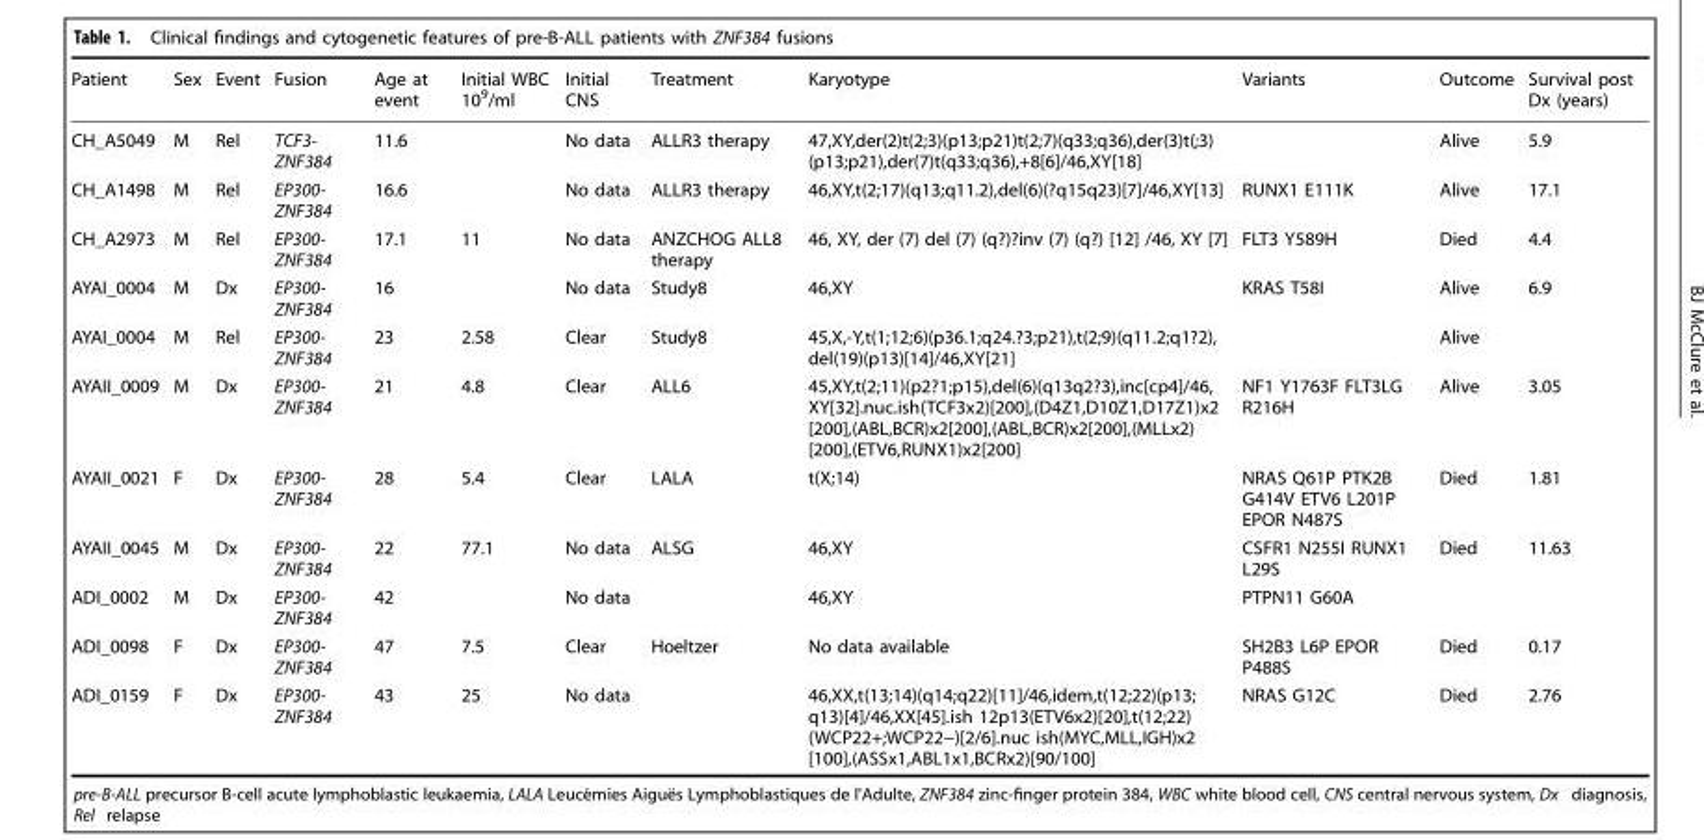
<table><thead><tr><td>Patient</td><td>Sex</td><td>Event</td><td>Fusion</td><td>Age at event</td><td>Initial WBC 10<sup>9</sup>/ml</td><td>Initial CNS</td><td>Treatment</td><td>Karyotype</td><td>Variants</td><td>Outcome</td><td>Survival post Dx (years)</td></tr></thead><tbody><tr><td>CH_A5049</td><td>M</td><td>Rel</td><td>TCF3- ZNF384</td><td>11.6</td><td></td><td>No data</td><td>ALLR3 therapy</td><td>47,XY,der(2)t(2;3)(p13;p21)t(2;7)(q33;q36),der(3)t(;3) (p13;p21),der(7)t(q33;q36),+8[6]/46,XY[18]</td><td></td><td>Alive</td><td>5.9</td></tr><tr><td>CH_A1498</td><td>M</td><td>Rel</td><td>EP300- ZNF384</td><td>16.6</td><td></td><td>No data</td><td>ALLR3 therapy</td><td>46,XY,t(2;17)(q13;q11.2),del(6)(?q15q23)[7]/46,XY[13]</td><td>RUNX1 E111K</td><td>Alive</td><td>17.1</td></tr><tr><td>CH_A2973</td><td>M</td><td>Rel</td><td>EP300- ZNF384</td><td>17.1</td><td>11</td><td>No data</td><td>ANZCHOG ALL8 therapy</td><td>46, XY, der (7) del (7) (q?)?inv (7) (q?) [12] /46, XY [7]</td><td>FLT3 Y589H</td><td>Died</td><td>4.4</td></tr><tr><td>AYAI_0004</td><td>M</td><td>Dx</td><td>EP300- ZNF384</td><td>16</td><td></td><td>No data</td><td>Study8</td><td>46,XY</td><td>KRAS T58I</td><td>Alive</td><td>6.9</td></tr><tr><td>AYAI_0004</td><td>M</td><td>Rel</td><td>EP300- ZNF384</td><td>23</td><td>2.58</td><td>Clear</td><td>Study8</td><td>45,X,-Y,t(1;12;6)(p36.1;q24.?3;p21),t(2;9)(q11.2;q1?2), del(19)(p13)[14]/46,XY[21]</td><td></td><td>Alive</td><td></td></tr><tr><td>AYAII_0009</td><td>M</td><td>Dx</td><td>EP300- ZNF384</td><td>21</td><td>4.8</td><td>Clear</td><td>ALL6</td><td>45,XY,t(2;11)(p2?1;p15),del(6)(q13q2?3),inc[cp4]/46, XY[32].nuc.ish(TCF3x2)[200],(D4Z1,D10Z1,D17Z1)x2 [200],(ABL,BCR)x2[200],(ABL,BCR)x2[200],(MLLx2) [200],(ETV6,RUNX1)x2[200]</td><td>NF1 Y1763F FLT3LG R216H</td><td>Alive</td><td>3.05</td></tr><tr><td>AYAII_0021</td><td>F</td><td>Dx</td><td>EP300- ZNF384</td><td>28</td><td>5.4</td><td>Clear</td><td>LALA</td><td>t(X;14)</td><td>NRAS Q61P PTK2B G414V ETV6 L201P EPOR N487S</td><td>Died</td><td>1.81</td></tr><tr><td>AYAII_0045</td><td>M</td><td>Dx</td><td>EP300- ZNF384</td><td>22</td><td>77.1</td><td>No data</td><td>ALSG</td><td>46,XY</td><td>CSFR1 N255I RUNX1 L29S</td><td>Died</td><td>11.63</td></tr><tr><td>ADI_0002</td><td>M</td><td>Dx</td><td>EP300- ZNF384</td><td>42</td><td></td><td>No data</td><td></td><td>46,XY</td><td>PTPN11 G60A</td><td></td><td></td></tr><tr><td>ADI_0098</td><td>F</td><td>Dx</td><td>EP300- ZNF384</td><td>47</td><td>7.5</td><td>Clear</td><td>Hoeltzer</td><td>No data available</td><td>SH2B3 L6P EPOR P488S</td><td>Died</td><td>0.17</td></tr><tr><td>ADI_0159</td><td>F</td><td>Dx</td><td>EP300- ZNF384</td><td>43</td><td>25</td><td>No data</td><td></td><td>46,XX,t(13;14)(q14;q22)[11]/46,idem,t(12;22)(p13; q13)[4]/46,XX[45].ish 12p13(ETV6x2)[20],t(12;22) (WCP22+;WCP22−)[2/6].nuc ish(MYC,MLL,IGH)x2 [100],(ASSx1,ABL1x1,BCRx2)[90/100]</td><td>NRAS G12C</td><td>Died</td><td>2.76</td></tr></tbody></table>